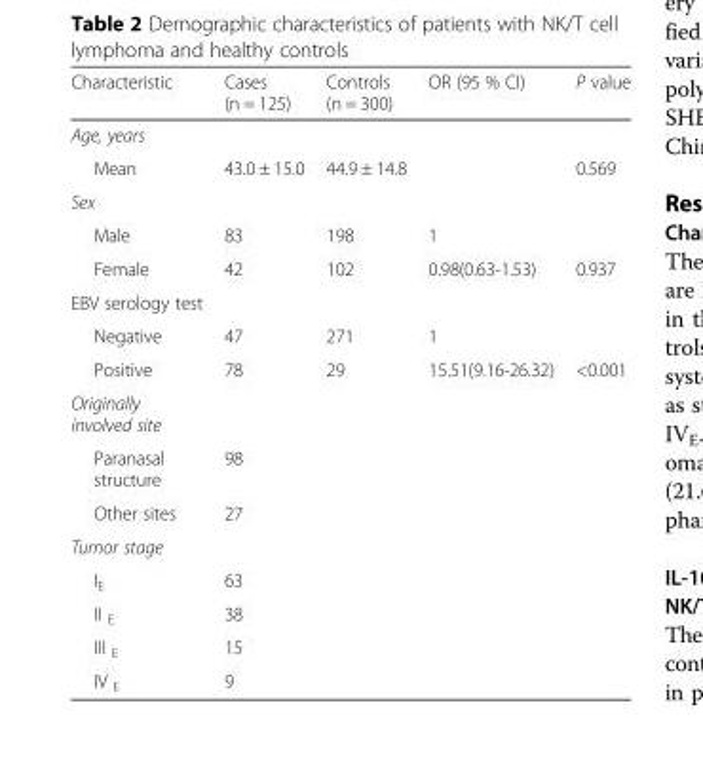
<table><thead><tr><td>Characteristic</td><td>Cases (n = 125)</td><td>Controls (n = 300)</td><td>OR (95 % CI)</td><td>P value</td></tr></thead><tbody><tr><td colspan="5">Age, years</td></tr><tr><td>Mean</td><td>43.0 ± 15.0</td><td>44.9 ± 14.8</td><td></td><td>0.569</td></tr><tr><td colspan="5">Sex</td></tr><tr><td>Male</td><td>83</td><td>198</td><td>1</td><td></td></tr><tr><td>Female</td><td>42</td><td>102</td><td>0.98(0.63-1.53)</td><td>0.937</td></tr><tr><td colspan="5">EBV serology test</td></tr><tr><td>Negative</td><td>47</td><td>271</td><td>1</td><td></td></tr><tr><td>Positive</td><td>78</td><td>29</td><td>15.51(9.16-26.32)</td><td>&lt;0.001</td></tr><tr><td colspan="5">Originally involved site</td></tr><tr><td>Paranasal structure</td><td>98</td><td></td><td></td><td></td></tr><tr><td>Other sites</td><td>27</td><td></td><td></td><td></td></tr><tr><td colspan="5">Tumor stage</td></tr><tr><td>I<sub>E</sub></td><td>63</td><td></td><td></td><td></td></tr><tr><td>II <sub>E</sub></td><td>38</td><td></td><td></td><td></td></tr><tr><td>III <sub>E</sub></td><td>15</td><td></td><td></td><td></td></tr><tr><td>IV <sub>E</sub></td><td>9</td><td></td><td></td><td></td></tr></tbody></table>